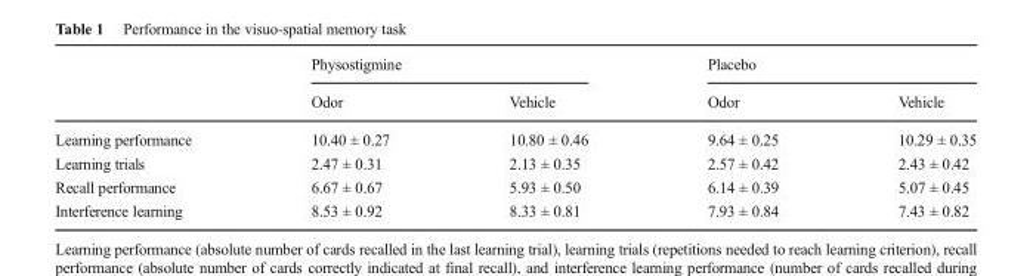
<table><thead><tr><td rowspan="2"></td><td colspan="2">Physostigmine</td><td colspan="2">Placebo</td></tr><tr><td>Odor</td><td>Vehicle</td><td>Odor</td><td>Vehicle</td></tr></thead><tbody><tr><td>Learning performance</td><td>10.40 ± 0.27</td><td>10.80 ± 0.46</td><td>9.64 ± 0.25</td><td>10.29 ± 0.35</td></tr><tr><td>Learning trials</td><td>2.47 ± 0.31</td><td>2.13 ± 0.35</td><td>2.57 ± 0.42</td><td>2.43 ± 0.42</td></tr><tr><td>Recall performance</td><td>6.67 ± 0.67</td><td>5.93 ± 0.50</td><td>6.14 ± 0.39</td><td>5.07 ± 0.45</td></tr><tr><td>Interference learning</td><td>8.53 ± 0.92</td><td>8.33 ± 0.81</td><td>7.93 ± 0.84</td><td>7.43 ± 0.82</td></tr></tbody></table>